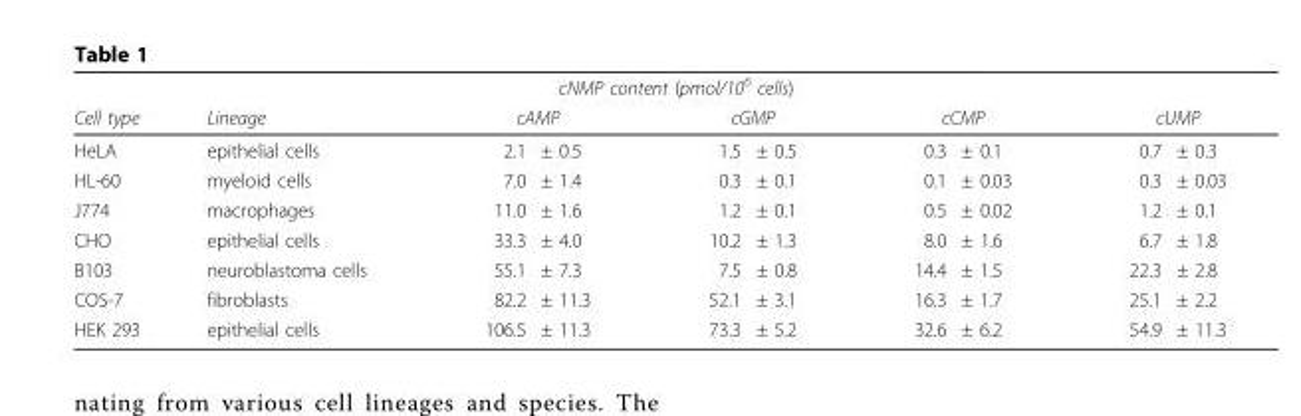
<table><thead><tr><td colspan="10">cNMP content (pmol/10<sup>6</sup> cells)</td></tr><tr><td rowspan="2">Cell type HeLA</td><td rowspan="2">Lineage epithelial cells</td><td colspan="2">cAMP</td><td colspan="2">cGMP</td><td colspan="2">cCMP</td><td colspan="2">cUMP</td></tr><tr><td>2.1</td><td>± 0.5</td><td>1.5</td><td>± 0.5</td><td>0.3</td><td>± 0.1</td><td>0.7</td><td>± 0.3</td></tr></thead><tbody><tr><td>HL-60</td><td>myeloid cells</td><td>7.0</td><td>± 1.4</td><td>0.3</td><td>± 0.1</td><td>0.1</td><td>± 0.03</td><td>0.3</td><td>± 0.03</td></tr><tr><td>J774</td><td>macrophages</td><td>11.0</td><td>± 1.6</td><td>1.2</td><td>± 0.1</td><td>0.5</td><td>± 0.02</td><td>1.2</td><td>± 0.1</td></tr><tr><td>CHO</td><td>epithelial cells</td><td>33.3</td><td>± 4.0</td><td>10.2</td><td>± 1.3</td><td>8.0</td><td>± 1.6</td><td>6.7</td><td>± 1.8</td></tr><tr><td>B103</td><td>neuroblastoma cells</td><td>55.1</td><td>± 7.3</td><td>7.5</td><td>± 0.8</td><td>14.4</td><td>± 1.5</td><td>22.3</td><td>± 2.8</td></tr><tr><td>COS-7</td><td>fibroblasts</td><td>82.2</td><td>± 11.3</td><td>52.1</td><td>± 3.1</td><td>16.3</td><td>± 1.7</td><td>25.1</td><td>± 2.2</td></tr><tr><td>HEK 293</td><td>epithelial cells</td><td>106.5</td><td>± 11.3</td><td>73.3</td><td>± 5.2</td><td>32.6</td><td>± 6.2</td><td>54.9</td><td>± 11.3</td></tr></tbody></table>